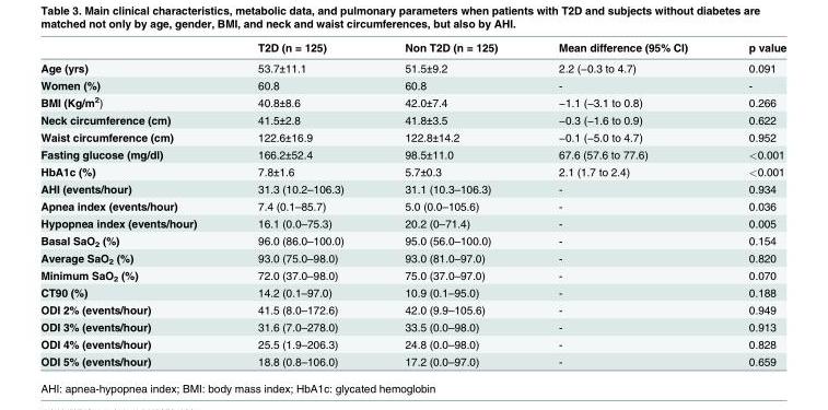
<table><thead><tr><td></td><td>T2D (n = 125)</td><td>Non T2D (n = 125)</td><td>Mean difference (95% CI)</td><td>p value</td></tr></thead><tbody><tr><td>Age (yrs)</td><td>53.7±11.1</td><td>51.5±9.2</td><td>2.2 (−0.3 to 4.7)</td><td>0.091</td></tr><tr><td>Women (%)</td><td>60.8</td><td>60.8</td><td>-</td><td>-</td></tr><tr><td>BMI (Kg/m<sup>2</sup>)</td><td>40.8±8.6</td><td>42.0±7.4</td><td>−1.1 (−3.1 to 0.8)</td><td>0.266</td></tr><tr><td>Neck circumference (cm)</td><td>41.5±2.8</td><td>41.8±3.5</td><td>−0.3 (−1.6 to 0.9)</td><td>0.622</td></tr><tr><td>Waist circumference (cm)</td><td>122.6±16.9</td><td>122.8±14.2</td><td>−0.1 (−5.0 to 4.7)</td><td>0.952</td></tr><tr><td>Fasting glucose (mg/dl)</td><td>166.2±52.4</td><td>98.5±11.0</td><td>67.6 (57.6 to 77.6)</td><td>&lt;0.001</td></tr><tr><td>HbA1c (%)</td><td>7.8±1.6</td><td>5.7±0.3</td><td>2.1 (1.7 to 2.4)</td><td>&lt;0.001</td></tr><tr><td>AHI (events/hour)</td><td>31.3 (10.2–106.3)</td><td>31.1 (10.3–106.3)</td><td>-</td><td>0.934</td></tr><tr><td>Apnea index (events/hour)</td><td>7.4 (0.1–85.7)</td><td>5.0 (0.0–105.6)</td><td>-</td><td>0.036</td></tr><tr><td>Hypopnea index (events/hour)</td><td>16.1 (0.0–75.3)</td><td>20.2 (0–71.4)</td><td>-</td><td>0.005</td></tr><tr><td>Basal SaO<sub>2</sub> (%)</td><td>96.0 (86.0–100.0)</td><td>95.0 (56.0–100.0)</td><td>-</td><td>0.154</td></tr><tr><td>Average SaO<sub>2</sub> (%)</td><td>93.0 (75.0–98.0)</td><td>93.0 (81.0–97.0)</td><td>-</td><td>0.820</td></tr><tr><td>Minimum SaO<sub>2</sub> (%)</td><td>72.0 (37.0–98.0)</td><td>75.0 (37.0–97.0)</td><td>-</td><td>0.070</td></tr><tr><td>CT90 (%)</td><td>14.2 (0.1–97.0)</td><td>10.9 (0.1–95.0)</td><td>-</td><td>0.188</td></tr><tr><td>ODI 2% (events/hour)</td><td>41.5 (8.0–172.6)</td><td>42.0 (9.9–105.6)</td><td>-</td><td>0.949</td></tr><tr><td>ODI 3% (events/hour)</td><td>31.6 (7.0–278.0)</td><td>33.5 (0.0–98.0)</td><td>-</td><td>0.913</td></tr><tr><td>ODI 4% (events/hour)</td><td>25.5 (1.9–206.3)</td><td>24.8 (0.0–98.0)</td><td>-</td><td>0.828</td></tr><tr><td>ODI 5% (events/hour)</td><td>18.8 (0.8–106.0)</td><td>17.2 (0.0–97.0)</td><td>-</td><td>0.659</td></tr></tbody></table>